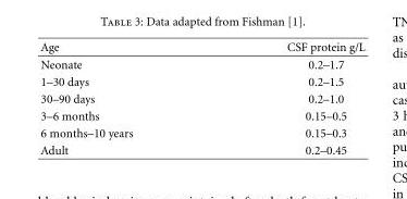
<table><thead><tr><td>Age</td><td>CSF protein g/L</td></tr></thead><tbody><tr><td>Neonate</td><td>0.2–1.7</td></tr><tr><td>1–30 days</td><td>0.2–1.5</td></tr><tr><td>30–90 days</td><td>0.2–1.0</td></tr><tr><td>3–6 months</td><td>0.15–0.5</td></tr><tr><td>6 months–10 years</td><td>0.15–0.3</td></tr><tr><td>Adult</td><td>0.2–0.45</td></tr></tbody></table>